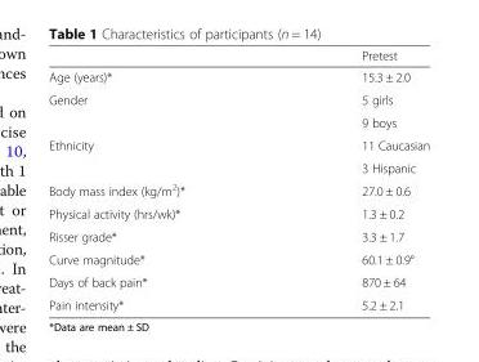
<table><thead><tr><td></td><td>Pretest</td></tr></thead><tbody><tr><td>Age (years)*</td><td>15.3 ± 2.0</td></tr><tr><td rowspan="2">Gender</td><td>5 girls</td></tr><tr><td>9 boys</td></tr><tr><td rowspan="2">Ethnicity</td><td>11 Caucasian</td></tr><tr><td>3 Hispanic</td></tr><tr><td>Body mass index (kg/m<sup>2</sup>)*</td><td>27.0 ± 0.6</td></tr><tr><td>Physical activity (hrs/wk)*</td><td>1.3 ± 0.2</td></tr><tr><td>Risser grade*</td><td>3.3 ± 1.7</td></tr><tr><td>Curve magnitude*</td><td>60.1 ± 0.9°</td></tr><tr><td>Days of back pain*</td><td>870 ± 64</td></tr><tr><td>Pain intensity*</td><td>5.2 ± 2.1</td></tr></tbody></table>